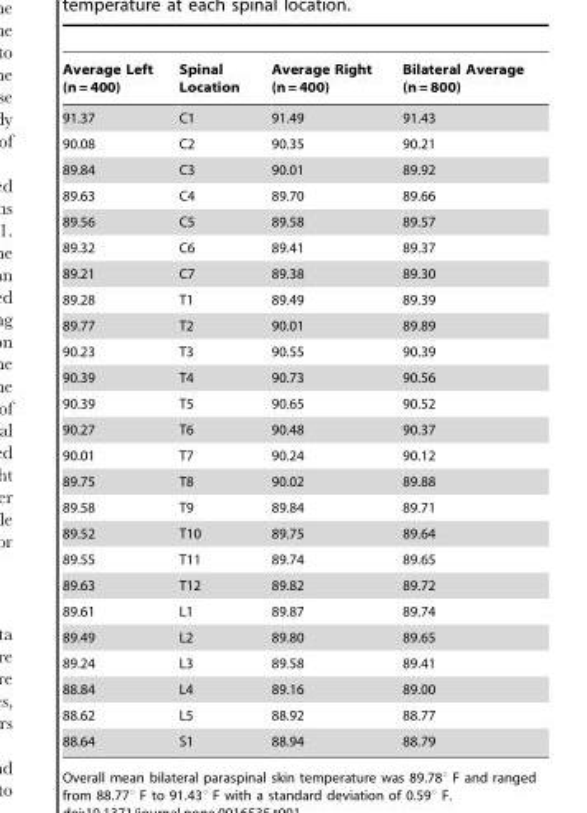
<table><thead><tr><td>Average Left (n = 400)</td><td>Spinal Location</td><td>Average Right (n = 400)</td><td>Bilateral Average (n = 800)</td></tr></thead><tbody><tr><td>91.37</td><td>C1</td><td>91.49</td><td>91.43</td></tr><tr><td>90.08</td><td>C2</td><td>90.35</td><td>90.21</td></tr><tr><td>89.84</td><td>C3</td><td>90.01</td><td>89.92</td></tr><tr><td>89.63</td><td>C4</td><td>89.70</td><td>89.66</td></tr><tr><td>89.56</td><td>C5</td><td>89.58</td><td>89.57</td></tr><tr><td>89.32</td><td>C6</td><td>89.41</td><td>89.37</td></tr><tr><td>89.21</td><td>C7</td><td>89.38</td><td>89.30</td></tr><tr><td>89.28</td><td>T1</td><td>89.49</td><td>89.39</td></tr><tr><td>89.77</td><td>T2</td><td>90.01</td><td>89.89</td></tr><tr><td>90.23</td><td>T3</td><td>90.55</td><td>90.39</td></tr><tr><td>90.39</td><td>T4</td><td>90.73</td><td>90.56</td></tr><tr><td>90.39</td><td>T5</td><td>90.65</td><td>90.52</td></tr><tr><td>90.27</td><td>T6</td><td>90.48</td><td>90.37</td></tr><tr><td>90.01</td><td>T7</td><td>90.24</td><td>90.12</td></tr><tr><td>89.75</td><td>T8</td><td>90.02</td><td>89.88</td></tr><tr><td>89.58</td><td>T9</td><td>89.84</td><td>89.71</td></tr><tr><td>89.52</td><td>T10</td><td>89.75</td><td>89.64</td></tr><tr><td>89.55</td><td>T11</td><td>89.74</td><td>89.65</td></tr><tr><td>89.63</td><td>T12</td><td>89.82</td><td>89.72</td></tr><tr><td>89.61</td><td>L1</td><td>89.87</td><td>89.74</td></tr><tr><td>89.49</td><td>L2</td><td>89.80</td><td>89.65</td></tr><tr><td>89.24</td><td>L3</td><td>89.58</td><td>89.41</td></tr><tr><td>88.84</td><td>L4</td><td>89.16</td><td>89.00</td></tr><tr><td>88.62</td><td>L5</td><td>88.92</td><td>88.77</td></tr><tr><td>88.64</td><td>S1</td><td>88.94</td><td>88.79</td></tr></tbody></table>